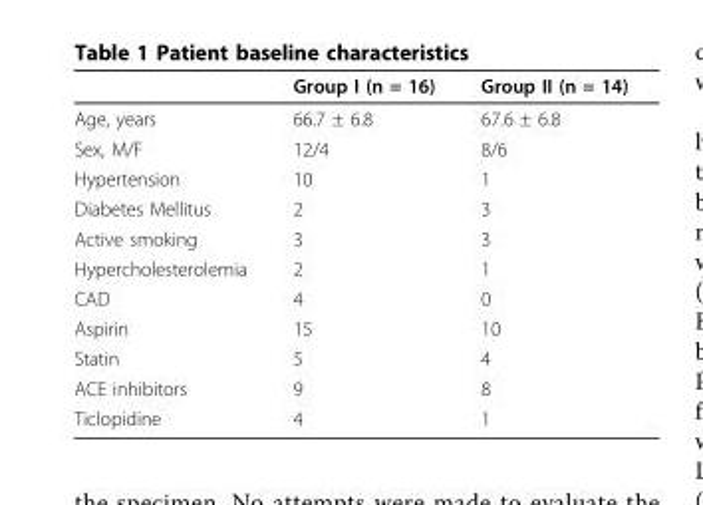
<table><thead><tr><td></td><td>Group I (n = 16)</td><td>Group II (n = 14)</td></tr></thead><tbody><tr><td>Age, years</td><td>66.7 ± 6.8</td><td>67.6 ± 6.8</td></tr><tr><td>Sex, M/F</td><td>12/4</td><td>8/6</td></tr><tr><td>Hypertension</td><td>10</td><td>1</td></tr><tr><td>Diabetes Mellitus</td><td>2</td><td>3</td></tr><tr><td>Active smoking</td><td>3</td><td>3</td></tr><tr><td>Hypercholesterolemia</td><td>2</td><td>1</td></tr><tr><td>CAD</td><td>4</td><td>0</td></tr><tr><td>Aspirin</td><td>15</td><td>10</td></tr><tr><td>Statin</td><td>5</td><td>4</td></tr><tr><td>ACE inhibitors</td><td>9</td><td>8</td></tr><tr><td>Ticlopidine</td><td>4</td><td>1</td></tr></tbody></table>